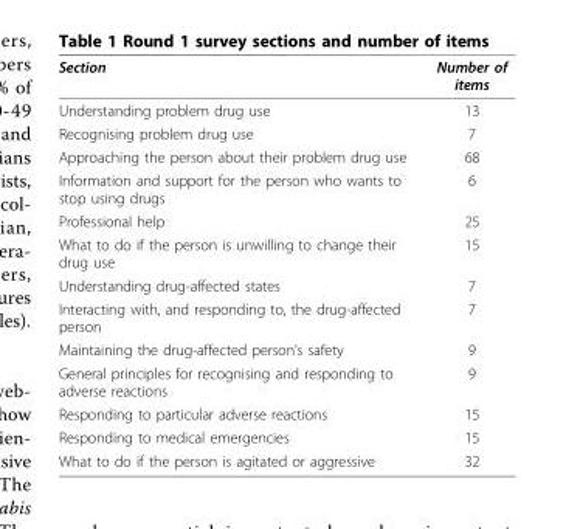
<table><thead><tr><td>Section</td><td>Number of items</td></tr></thead><tbody><tr><td>Understanding problem drug use</td><td>13</td></tr><tr><td>Recognising problem drug use</td><td>7</td></tr><tr><td>Approaching the person about their problem drug use</td><td>68</td></tr><tr><td>Information and support for the person who wants to stop using drugs</td><td>6</td></tr><tr><td>Professional help</td><td>25</td></tr><tr><td>What to do if the person is unwilling to change their drug use</td><td>15</td></tr><tr><td>Understanding drug-affected states</td><td>7</td></tr><tr><td>Interacting with, and responding to, the drug-affected person</td><td>7</td></tr><tr><td>Maintaining the drug-affected person’s safety</td><td>9</td></tr><tr><td>General principles for recognising and responding to adverse reactions</td><td>9</td></tr><tr><td>Responding to particular adverse reactions</td><td>15</td></tr><tr><td>Responding to medical emergencies</td><td>15</td></tr><tr><td>What to do if the person is agitated or aggressive</td><td>32</td></tr></tbody></table>